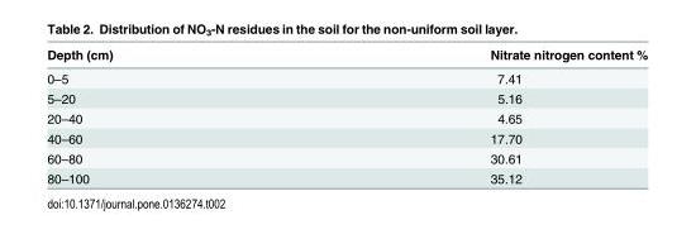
<table><thead><tr><td>Depth (cm)</td><td>Nitrate nitrogen content %</td></tr></thead><tbody><tr><td>0–5</td><td>7.41</td></tr><tr><td>5–20</td><td>5.16</td></tr><tr><td>20–40</td><td>4.65</td></tr><tr><td>40–60</td><td>17.70</td></tr><tr><td>60–80</td><td>30.61</td></tr><tr><td>80–100</td><td>35.12</td></tr></tbody></table>